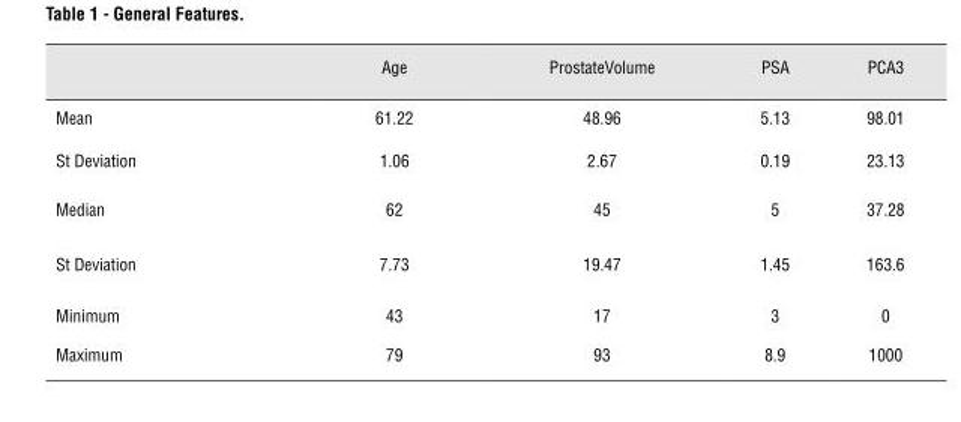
<table><thead><tr><td></td><td>Age</td><td>ProstateVolume</td><td>PSA</td><td>PCA3</td></tr></thead><tbody><tr><td>Mean</td><td>61.22</td><td>48.96</td><td>5.13</td><td>98.01</td></tr><tr><td>St Deviation</td><td>1.06</td><td>2.67</td><td>0.19</td><td>23.13</td></tr><tr><td>Median</td><td>62</td><td>45</td><td>5</td><td>37.28</td></tr><tr><td>St Deviation</td><td>7.73</td><td>19.47</td><td>1.45</td><td>163.6</td></tr><tr><td>Minimum</td><td>43</td><td>17</td><td>3</td><td>0</td></tr><tr><td>Maximum</td><td>79</td><td>93</td><td>8.9</td><td>1000</td></tr></tbody></table>